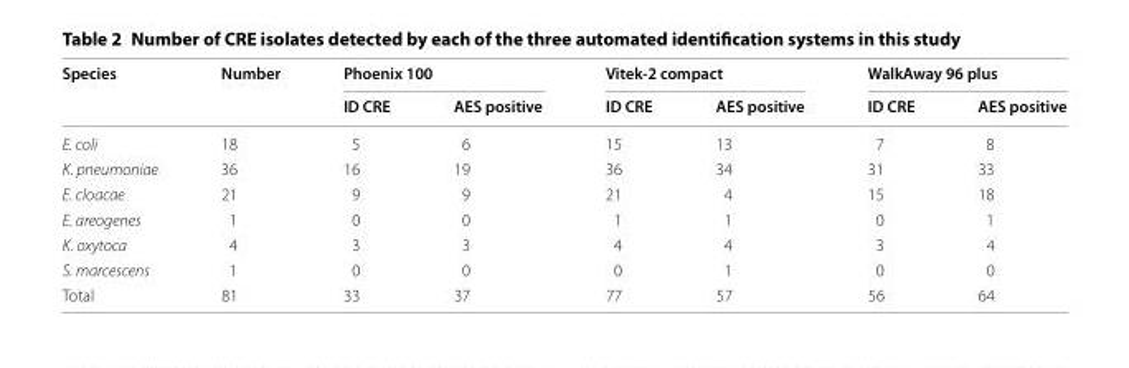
<table><thead><tr><td rowspan="2">Species</td><td rowspan="2">Number</td><td colspan="2">Phoenix 100</td><td colspan="2">Vitek-2 compact</td><td colspan="2">WalkAway 96 plus</td></tr><tr><td>ID CRE</td><td>AES positive</td><td>ID CRE</td><td>AES positive</td><td>ID CRE</td><td>AES positive</td></tr></thead><tbody><tr><td>E. coli</td><td>18</td><td>5</td><td>6</td><td>15</td><td>13</td><td>7</td><td>8</td></tr><tr><td>K. pneumoniae</td><td>36</td><td>16</td><td>19</td><td>36</td><td>34</td><td>31</td><td>33</td></tr><tr><td>E. cloacae</td><td>21</td><td>9</td><td>9</td><td>21</td><td>4</td><td>15</td><td>18</td></tr><tr><td>E. areogenes</td><td>1</td><td>0</td><td>0</td><td>1</td><td>1</td><td>0</td><td>1</td></tr><tr><td>K. oxytoca</td><td>4</td><td>3</td><td>3</td><td>4</td><td>4</td><td>3</td><td>4</td></tr><tr><td>S. marcescens</td><td>1</td><td>0</td><td>0</td><td>0</td><td>1</td><td>0</td><td>0</td></tr><tr><td>Total</td><td>81</td><td>33</td><td>37</td><td>77</td><td>57</td><td>56</td><td>64</td></tr></tbody></table>